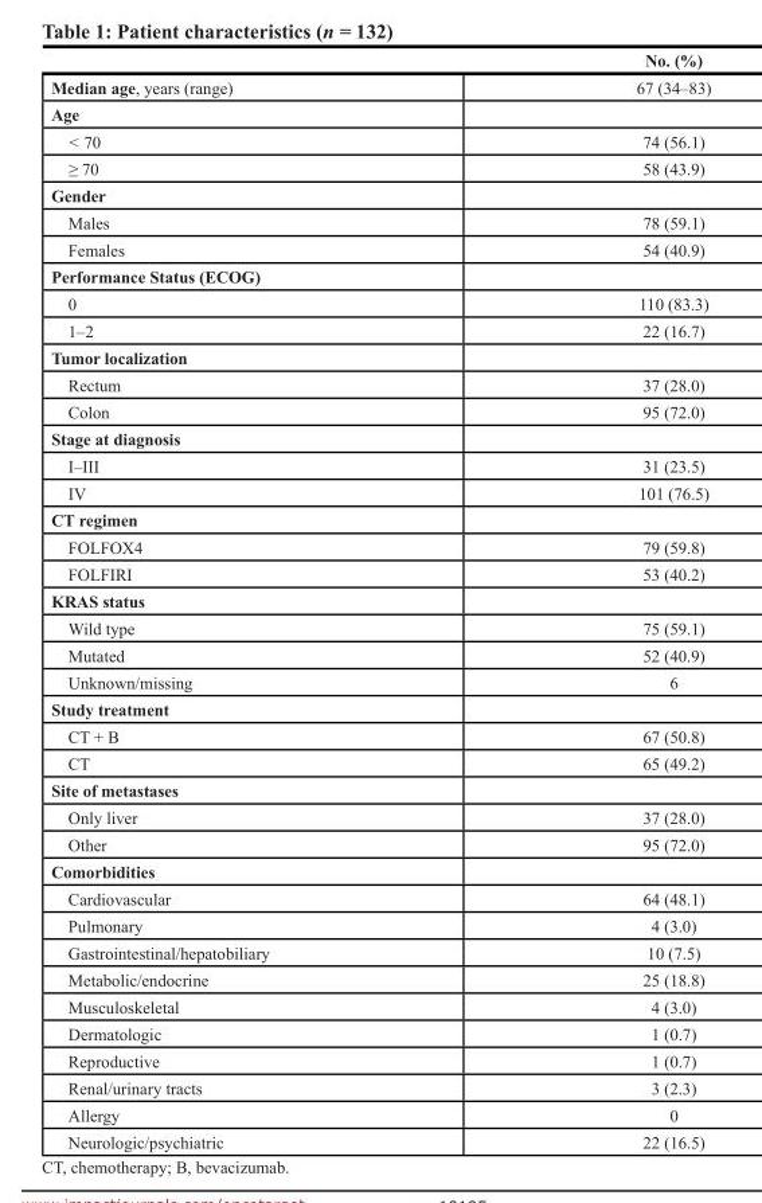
<table><thead><tr><td></td><td>No. (%)</td></tr></thead><tbody><tr><td>Median age, years (range)</td><td>67 (34–83)</td></tr><tr><td colspan="2">Age</td></tr><tr><td>&lt; 70</td><td>74 (56.1)</td></tr><tr><td>≥ 70</td><td>58 (43.9)</td></tr><tr><td colspan="2">Gender</td></tr><tr><td>Males</td><td>78 (59.1)</td></tr><tr><td>Females</td><td>54 (40.9)</td></tr><tr><td colspan="2">Performance Status (ECOG)</td></tr><tr><td>0</td><td>110 (83.3)</td></tr><tr><td>1–2</td><td>22 (16.7)</td></tr><tr><td colspan="2">Tumor localization</td></tr><tr><td>Rectum</td><td>37 (28.0)</td></tr><tr><td>Colon</td><td>95 (72.0)</td></tr><tr><td colspan="2">Stage at diagnosis</td></tr><tr><td>I–III</td><td>31 (23.5)</td></tr><tr><td>IV</td><td>101 (76.5)</td></tr><tr><td colspan="2">CT regimen</td></tr><tr><td>FOLFOX4</td><td>79 (59.8)</td></tr><tr><td>FOLFIRI</td><td>53 (40.2)</td></tr><tr><td colspan="2">KRAS status</td></tr><tr><td>Wild type</td><td>75 (59.1)</td></tr><tr><td>Mutated</td><td>52 (40.9)</td></tr><tr><td>Unknown/missing</td><td>6</td></tr><tr><td colspan="2">Study treatment</td></tr><tr><td>CT + B</td><td>67 (50.8)</td></tr><tr><td>CT</td><td>65 (49.2)</td></tr><tr><td colspan="2">Site of metastases</td></tr><tr><td>Only liver</td><td>37 (28.0)</td></tr><tr><td>Other</td><td>95 (72.0)</td></tr><tr><td colspan="2">Comorbidities</td></tr><tr><td>Cardiovascular</td><td>64 (48.1)</td></tr><tr><td>Pulmonary</td><td>4 (3.0)</td></tr><tr><td>Gastrointestinal/hepatobiliary</td><td>10 (7.5)</td></tr><tr><td>Metabolic/endocrine</td><td>25 (18.8)</td></tr><tr><td>Musculoskeletal</td><td>4 (3.0)</td></tr><tr><td>Dermatologic</td><td>1 (0.7)</td></tr><tr><td>Reproductive</td><td>1 (0.7)</td></tr><tr><td>Renal/urinary tracts</td><td>3 (2.3)</td></tr><tr><td>Allergy</td><td>0</td></tr><tr><td>Neurologic/psychiatric</td><td>22 (16.5)</td></tr></tbody></table>